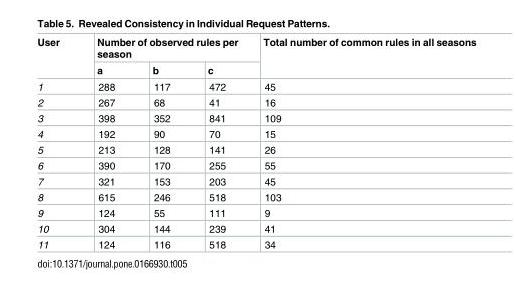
<table><thead><tr><td rowspan="2">User</td><td colspan="3">Number of observed rules per season</td><td rowspan="2">Total number of common rules in all seasons</td></tr><tr><td>a</td><td>b</td><td>c</td></tr></thead><tbody><tr><td>1</td><td>288</td><td>117</td><td>472</td><td>45</td></tr><tr><td>2</td><td>267</td><td>68</td><td>41</td><td>16</td></tr><tr><td>3</td><td>398</td><td>352</td><td>841</td><td>109</td></tr><tr><td>4</td><td>192</td><td>90</td><td>70</td><td>15</td></tr><tr><td>5</td><td>213</td><td>128</td><td>141</td><td>26</td></tr><tr><td>6</td><td>390</td><td>170</td><td>255</td><td>55</td></tr><tr><td>7</td><td>321</td><td>153</td><td>203</td><td>45</td></tr><tr><td>8</td><td>615</td><td>246</td><td>518</td><td>103</td></tr><tr><td>9</td><td>124</td><td>55</td><td>111</td><td>9</td></tr><tr><td>10</td><td>304</td><td>144</td><td>239</td><td>41</td></tr><tr><td>11</td><td>124</td><td>116</td><td>518</td><td>34</td></tr></tbody></table>